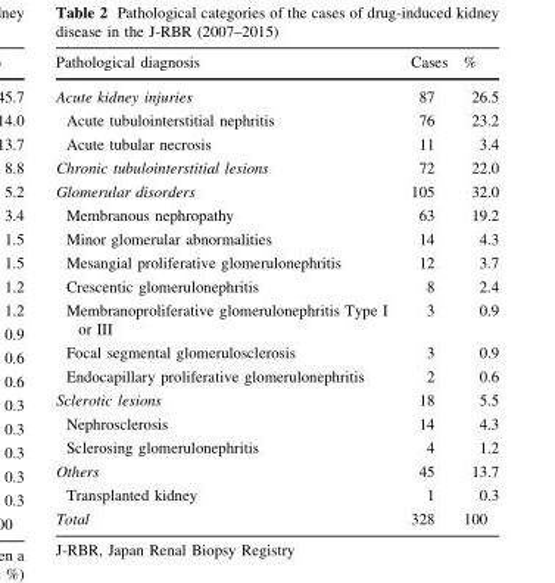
<table><thead><tr><td>Pathological diagnosis</td><td>Cases</td><td>%</td></tr></thead><tbody><tr><td>Acute kidney injuries</td><td>87</td><td>26.5</td></tr><tr><td>Acute tubulointerstitial nephritis</td><td>76</td><td>23.2</td></tr><tr><td>Acute tubular necrosis</td><td>11</td><td>3.4</td></tr><tr><td>Chronic tubulointerstitial lesions</td><td>72</td><td>22.0</td></tr><tr><td>Glomerular disorders</td><td>105</td><td>32.0</td></tr><tr><td>Membranous nephropathy</td><td>63</td><td>19.2</td></tr><tr><td>Minor glomerular abnormalities</td><td>14</td><td>4.3</td></tr><tr><td>Mesangial proliferative glomerulonephritis</td><td>12</td><td>3.7</td></tr><tr><td>Crescentic glomerulonephritis</td><td>8</td><td>2.4</td></tr><tr><td>Membranoproliferative glomerulonephritis Type I or III</td><td>3</td><td>0.9</td></tr><tr><td>Focal segmental glomerulosclerosis</td><td>3</td><td>0.9</td></tr><tr><td>Endocapillary proliferative glomerulonephritis</td><td>2</td><td>0.6</td></tr><tr><td>Sclerotic lesions</td><td>18</td><td>5.5</td></tr><tr><td>Nephrosclerosis</td><td>14</td><td>4.3</td></tr><tr><td>Sclerosing glomerulonephritis</td><td>4</td><td>1.2</td></tr><tr><td>Others</td><td>45</td><td>13.7</td></tr><tr><td>Transplanted kidney</td><td>1</td><td>0.3</td></tr><tr><td>Total</td><td>328</td><td>100</td></tr></tbody></table>